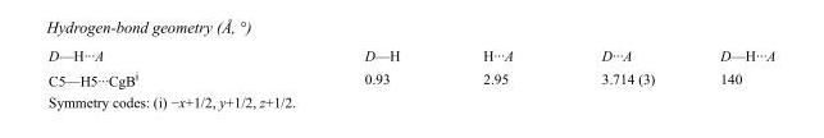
<table><tbody><tr><td>D—H···A</td><td>D—H</td><td>H···A</td><td>D···A</td><td>D—H···A</td></tr><tr><td>C5—H5···CgB<sup>i</sup></td><td>0.93</td><td>2.95</td><td>3.714 (3)</td><td>140</td></tr></tbody></table>